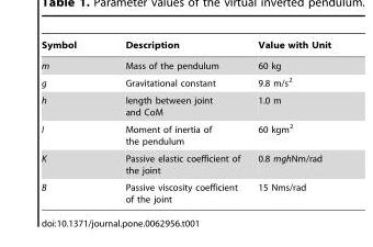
<table><thead><tr><td>Symbol</td><td>Description</td><td>Value with Unit</td></tr></thead><tbody><tr><td>m</td><td>Mass of the pendulum</td><td>60 kg</td></tr><tr><td>g</td><td>Gravitational constant</td><td>9.8 m/s<sup>2</sup></td></tr><tr><td>h</td><td>length between joint and CoM</td><td>1.0 m</td></tr><tr><td>I</td><td>Moment of inertia of the pendulum</td><td>60 kgm<sup>2</sup></td></tr><tr><td>K</td><td>Passive elastic coefficient of the joint</td><td>0.8 mghNm/rad</td></tr><tr><td>B</td><td>Passive viscosity coefficient of the joint</td><td>15 Nms/rad</td></tr></tbody></table>